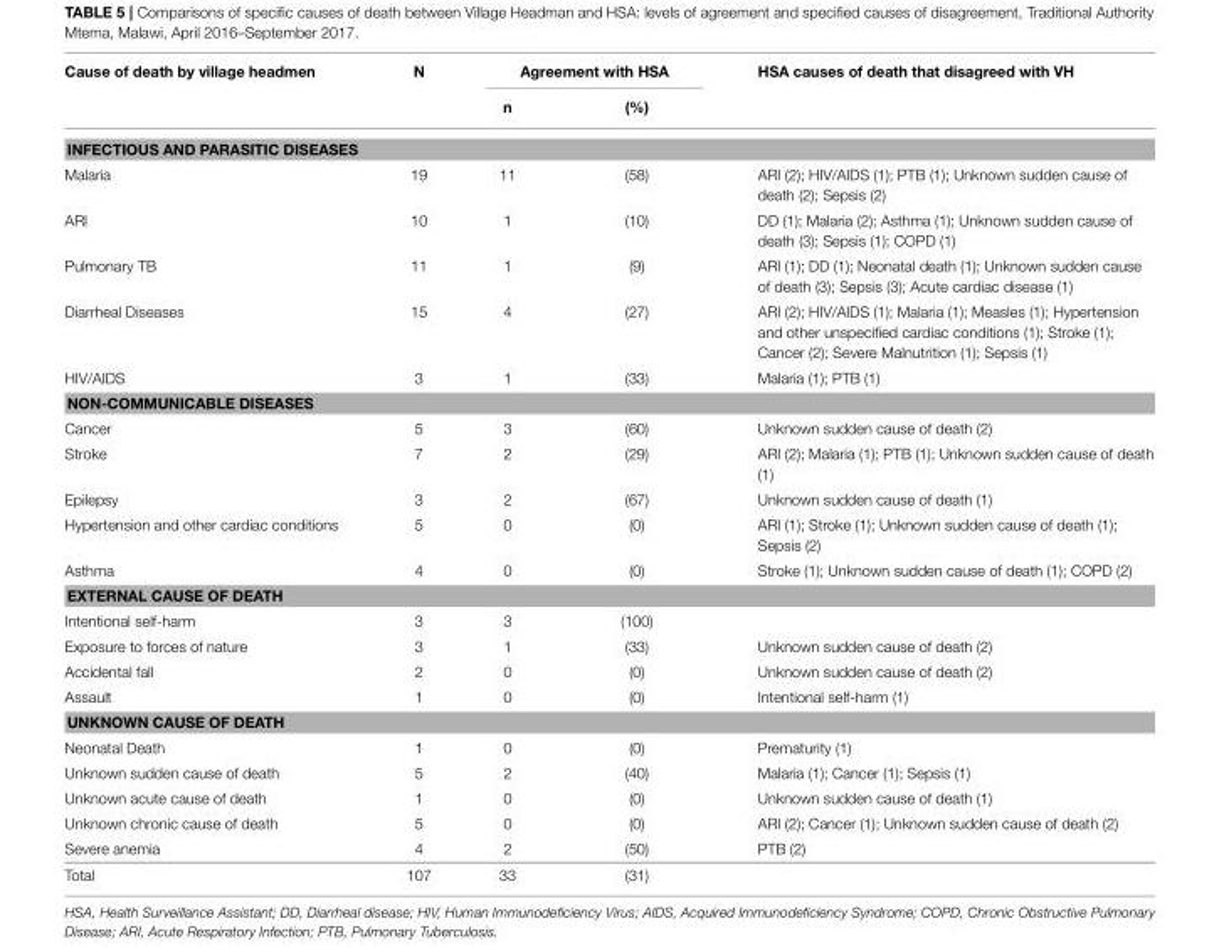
<table><thead><tr><td rowspan="2">Cause of death by village headmen</td><td rowspan="2">N</td><td colspan="2">Agreement with HSA</td><td rowspan="2">HSA causes of death that disagreed with VH</td></tr><tr><td>n</td><td>(%)</td></tr></thead><tbody><tr><td colspan="5">INFECTIOUS AND PARASITIC DISEASES</td></tr><tr><td>Malaria</td><td>19</td><td>11</td><td>(58)</td><td>ARI (2); HIV/AIDS (1); PTB (1); Unknown sudden cause of death (2); Sepsis (2)</td></tr><tr><td>ARI</td><td>10</td><td>1</td><td>(10)</td><td>DD (1); Malaria (2); Asthma (1); Unknown sudden cause of death (3); Sepsis (1); COPD (1)</td></tr><tr><td>Pulmonary TB</td><td>11</td><td>1</td><td>(9)</td><td>ARI (1); DD (1); Neonatal death (1); Unknown sudden cause of death (3); Sepsis (3); Acute cardiac disease (1)</td></tr><tr><td>Diarrheal Diseases</td><td>15</td><td>4</td><td>(27)</td><td>ARI (2); HIV/AIDS (1); Malaria (1); Measles (1); Hypertension and other unspecified cardiac conditions (1); Stroke (1); Cancer (2); Severe Malnutrition (1); Sepsis (1)</td></tr><tr><td>HIV/AIDS</td><td>3</td><td>1</td><td>(33)</td><td>Malaria (1); PTB (1)</td></tr><tr><td colspan="5">NON-COMMUNICABLE DISEASES</td></tr><tr><td>Cancer</td><td>5</td><td>3</td><td>(60)</td><td>Unknown sudden cause of death (2)</td></tr><tr><td>Stroke</td><td>7</td><td>2</td><td>(29)</td><td>ARI (2); Malaria (1); PTB (1); Unknown sudden cause of death (1)</td></tr><tr><td>Epilepsy</td><td>3</td><td>2</td><td>(67)</td><td>Unknown sudden cause of death (1)</td></tr><tr><td>Hypertension and other cardiac conditions</td><td>5</td><td>0</td><td>(0)</td><td>ARI (1); Stroke (1); Unknown sudden cause of death (1); Sepsis (2)</td></tr><tr><td>Asthma</td><td>4</td><td>0</td><td>(0)</td><td>Stroke (1); Unknown sudden cause of death (1); COPD (2)</td></tr><tr><td colspan="5">EXTERNAL CAUSE OF DEATH</td></tr><tr><td>Intentional self-harm</td><td>3</td><td>3</td><td>(100)</td><td></td></tr><tr><td>Exposure to forces of nature</td><td>3</td><td>1</td><td>(33)</td><td>Unknown sudden cause of death (2)</td></tr><tr><td>Accidental fall</td><td>2</td><td>0</td><td>(0)</td><td>Unknown sudden cause of death (2)</td></tr><tr><td>Assault</td><td>1</td><td>0</td><td>(0)</td><td>Intentional self-harm (1)</td></tr><tr><td colspan="5">UNKNOWN CAUSE OF DEATH</td></tr><tr><td>Neonatal Death</td><td>1</td><td>0</td><td>(0)</td><td>Prematurity (1)</td></tr><tr><td>Unknown sudden cause of death</td><td>5</td><td>2</td><td>(40)</td><td>Malaria (1); Cancer (1); Sepsis (1)</td></tr><tr><td>Unknown acute cause of death</td><td>1</td><td>0</td><td>(0)</td><td>Unknown sudden cause of death (1)</td></tr><tr><td>Unknown chronic cause of death</td><td>5</td><td>0</td><td>(0)</td><td>ARI (2); Cancer (1); Unknown sudden cause of death (2)</td></tr><tr><td>Severe anemia</td><td>4</td><td>2</td><td>(50)</td><td>PTB (2)</td></tr><tr><td>Total</td><td>107</td><td>33</td><td>(31)</td><td></td></tr></tbody></table>